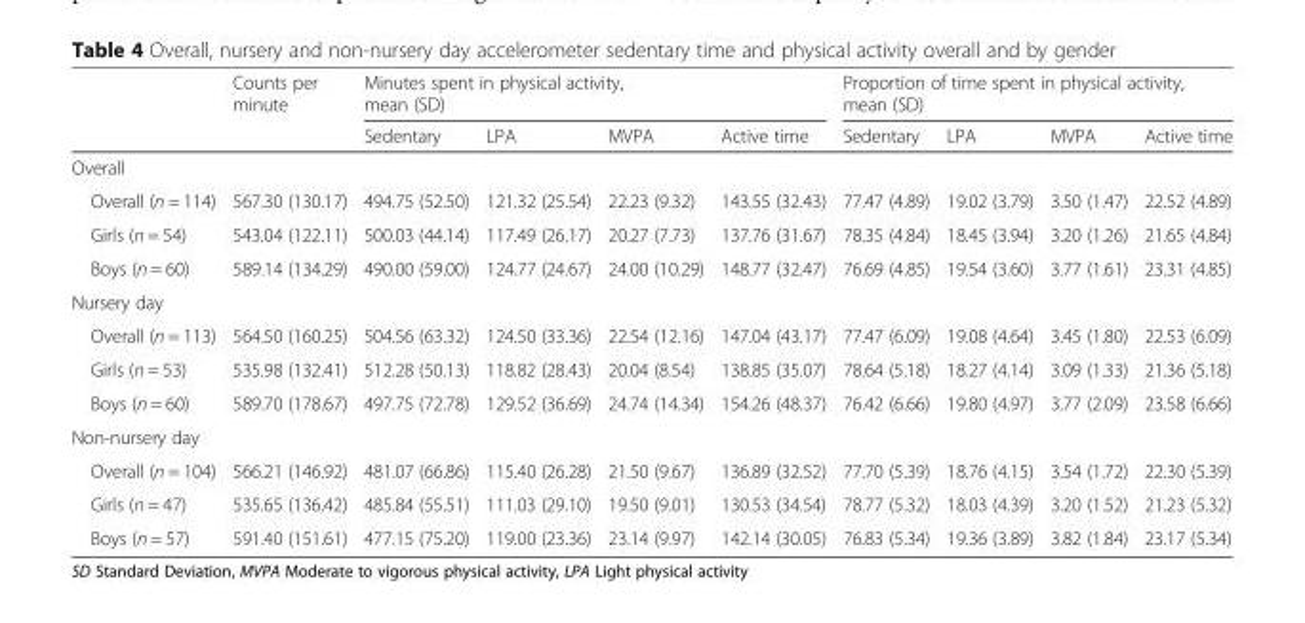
<table><thead><tr><td rowspan="2"></td><td rowspan="2">Counts per minute</td><td colspan="4">Minutes spent in physical activity, mean (SD)</td><td colspan="4">Proportion of time spent in physical activity, mean (SD)</td></tr><tr><td>Sedentary</td><td>LPA</td><td>MVPA</td><td>Active time</td><td>Sedentary</td><td>LPA</td><td>MVPA</td><td>Active time</td></tr></thead><tbody><tr><td colspan="10">Overall</td></tr><tr><td>Overall (n = 114)</td><td>567.30 (130.17)</td><td>494.75 (52.50)</td><td>121.32 (25.54)</td><td>22.23 (9.32)</td><td>143.55 (32.43)</td><td>77.47 (4.89)</td><td>19.02 (3.79)</td><td>3.50 (1.47)</td><td>22.52 (4.89)</td></tr><tr><td>Girls (n = 54)</td><td>543.04 (122.11)</td><td>500.03 (44.14)</td><td>117.49 (26.17)</td><td>20.27 (7.73)</td><td>137.76 (31.67)</td><td>78.35 (4.84)</td><td>18.45 (3.94)</td><td>3.20 (1.26)</td><td>21.65 (4.84)</td></tr><tr><td>Boys (n = 60)</td><td>589.14 (134.29)</td><td>490.00 (59.00)</td><td>124.77 (24.67)</td><td>24.00 (10.29)</td><td>148.77 (32.47)</td><td>76.69 (4.85)</td><td>19.54 (3.60)</td><td>3.77 (1.61)</td><td>23.31 (4.85)</td></tr><tr><td colspan="10">Nursery day</td></tr><tr><td>Overall (n = 113)</td><td>564.50 (160.25)</td><td>504.56 (63.32)</td><td>124.50 (33.36)</td><td>22.54 (12.16)</td><td>147.04 (43.17)</td><td>77.47 (6.09)</td><td>19.08 (4.64)</td><td>3.45 (1.80)</td><td>22.53 (6.09)</td></tr><tr><td>Girls (n = 53)</td><td>535.98 (132.41)</td><td>512.28 (50.13)</td><td>118.82 (28.43)</td><td>20.04 (8.54)</td><td>138.85 (35.07)</td><td>78.64 (5.18)</td><td>18.27 (4.14)</td><td>3.09 (1.33)</td><td>21.36 (5.18)</td></tr><tr><td>Boys (n = 60)</td><td>589.70 (178.67)</td><td>497.75 (72.78)</td><td>129.52 (36.69)</td><td>24.74 (14.34)</td><td>154.26 (48.37)</td><td>76.42 (6.66)</td><td>19.80 (4.97)</td><td>3.77 (2.09)</td><td>23.58 (6.66)</td></tr><tr><td colspan="10">Non-nursery day</td></tr><tr><td>Overall (n = 104)</td><td>566.21 (146.92)</td><td>481.07 (66.86)</td><td>115.40 (26.28)</td><td>21.50 (9.67)</td><td>136.89 (32.52)</td><td>77.70 (5.39)</td><td>18.76 (4.15)</td><td>3.54 (1.72)</td><td>22.30 (5.39)</td></tr><tr><td>Girls (n = 47)</td><td>535.65 (136.42)</td><td>485.84 (55.51)</td><td>111.03 (29.10)</td><td>19.50 (9.01)</td><td>130.53 (34.54)</td><td>78.77 (5.32)</td><td>18.03 (4.39)</td><td>3.20 (1.52)</td><td>21.23 (5.32)</td></tr><tr><td>Boys (n = 57)</td><td>591.40 (151.61)</td><td>477.15 (75.20)</td><td>119.00 (23.36)</td><td>23.14 (9.97)</td><td>142.14 (30.05)</td><td>76.83 (5.34)</td><td>19.36 (3.89)</td><td>3.82 (1.84)</td><td>23.17 (5.34)</td></tr></tbody></table>